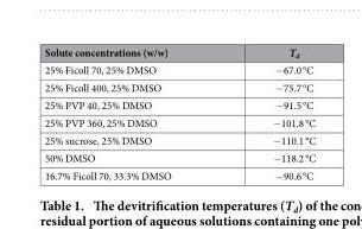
<table><thead><tr><td>Solute concentrations (w/w)</td><td>T<sub>d</sub></td></tr></thead><tbody><tr><td>25% Ficoll 70, 25% DMSO</td><td>− 67.0 °C</td></tr><tr><td>25% Ficoll 400, 25% DMSO</td><td>− 75.7 °C</td></tr><tr><td>25% PVP 40, 25% DMSO</td><td>− 91.5 °C</td></tr><tr><td>25% PVP 360, 25% DMSO</td><td>− 101.8 °C</td></tr><tr><td>25% sucrose, 25% DMSO</td><td>− 110.1 °C</td></tr><tr><td>50% DMSO</td><td>− 118.2 °C</td></tr><tr><td>16.7% Ficoll 70, 33.3% DMSO</td><td>− 90.6 °C</td></tr></tbody></table>